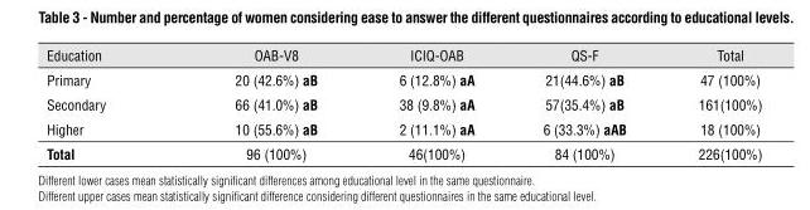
<table><thead><tr><td>Education</td><td>OAB-V8</td><td>ICIQ-OAB</td><td>QS-F</td><td>Total</td></tr></thead><tbody><tr><td>Primary</td><td>20 (42.6%) aB</td><td>6 (12.8%) aA</td><td>21(44.6%) aB</td><td>47 (100%)</td></tr><tr><td>Secondary</td><td>66 (41.0%) aB</td><td>38 (9.8%) aA</td><td>57(35.4%) aB</td><td>161(100%)</td></tr><tr><td>Higher</td><td>10 (55.6%) aB</td><td>2 (11.1%) aA</td><td>6 (33.3%) aAB</td><td>18 (100%)</td></tr><tr><td>Total</td><td>96 (100%)</td><td>46(100%)</td><td>84 (100%)</td><td>226(100%)</td></tr></tbody></table>